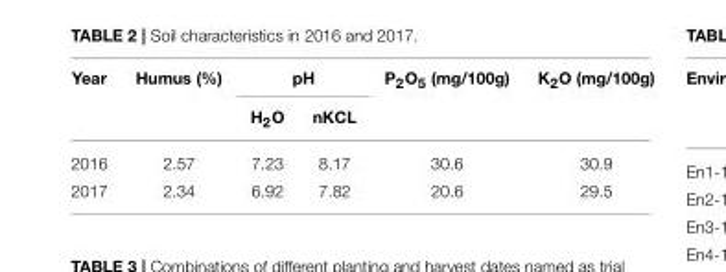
<table><thead><tr><td rowspan="2">Year</td><td rowspan="2">Humus (%)</td><td colspan="2">pH</td><td rowspan="2">P<sub>2</sub>O<sub>5</sub> (mg/100g)</td><td rowspan="2">K<sub>2</sub>O (mg/100g)</td></tr><tr><td>H<sub>2</sub>O</td><td>nKCL</td></tr></thead><tbody><tr><td>2016</td><td>2.57</td><td>7.23</td><td>8.17</td><td>30.6</td><td>30.9</td></tr><tr><td>2017</td><td>2.34</td><td>6.92</td><td>7.82</td><td>20.6</td><td>29.5</td></tr></tbody></table>